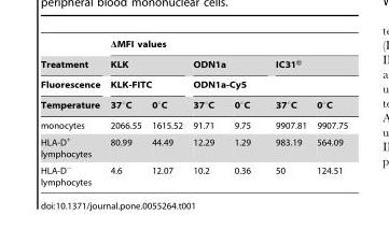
<table><thead><tr><td rowspan="4">Treatment Fluorescence Temperature</td><td colspan="6">ΔMFI values</td></tr><tr><td rowspan="2" colspan="2">KLK KLK-FITC</td><td colspan="2">ODN1a</td><td colspan="2">IC31®</td></tr><tr><td colspan="4">ODN1a-Cy5</td></tr><tr><td>37°C</td><td>0°C</td><td>37°C</td><td>0°C</td><td>37°C</td><td>0°C</td></tr></thead><tbody><tr><td>monocytes</td><td>2066.55</td><td>1615.52</td><td>91.71</td><td>9.75</td><td>9907.81</td><td>9907.75</td></tr><tr><td>HLA-D<sup>+</sup> lymphocytes</td><td>80.99</td><td>44.49</td><td>12.29</td><td>1.29</td><td>983.19</td><td>564.09</td></tr><tr><td>HLA-D<sup>−</sup> lymphocytes</td><td>4.6</td><td>12.07</td><td>10.2</td><td>0.36</td><td>50</td><td>124.51</td></tr></tbody></table>